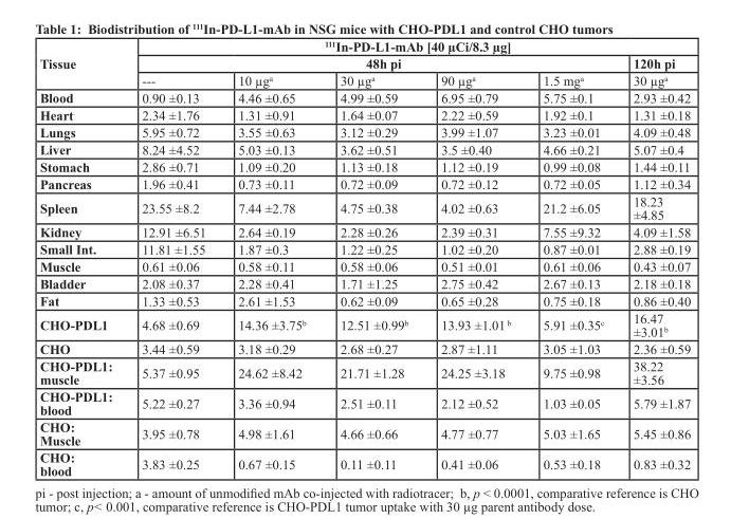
<table><thead><tr><td rowspan="3">Tissue</td><td colspan="6"><sup>111</sup>In-PD-L1-mAb [40 µCi/8.3 µg]</td></tr><tr><td colspan="5">48h pi</td><td rowspan="2">120h pi 30 µg<sup>a</sup></td></tr><tr><td>---</td><td>10 µg<sup>a</sup></td><td>30 µg<sup>a</sup></td><td>90 µg<sup>a</sup></td><td>1.5 mg<sup>a</sup></td></tr></thead><tbody><tr><td>Blood</td><td>0.90 ±0.13</td><td>4.46 ±0.65</td><td>4.99 ±0.59</td><td>6.95 ±0.79</td><td>5.75 ±0.1</td><td>2.93 ±0.42</td></tr><tr><td>Heart</td><td>2.34 ±1.76</td><td>1.31 ±0.91</td><td>1.64 ±0.07</td><td>2.22 ±0.59</td><td>1.92 ±0.1</td><td>1.31 ±0.18</td></tr><tr><td>Lungs</td><td>5.95 ±0.72</td><td>3.55 ±0.63</td><td>3.12 ±0.29</td><td>3.99 ±1.07</td><td>3.23 ±0.01</td><td>4.09 ±0.48</td></tr><tr><td>Liver</td><td>8.24 ±4.52</td><td>5.03 ±0.13</td><td>3.62 ±0.51</td><td>3.5 ±0.40</td><td>4.66 ±0.21</td><td>5.07 ±0.4</td></tr><tr><td>Stomach</td><td>2.86 ±0.71</td><td>1.09 ±0.20</td><td>1.13 ±0.18</td><td>1.12 ±0.19</td><td>0.99 ±0.08</td><td>1.44 ±0.11</td></tr><tr><td>Pancreas</td><td>1.96 ±0.41</td><td>0.73 ±0.11</td><td>0.72 ±0.09</td><td>0.72 ±0.12</td><td>0.72 ±0.05</td><td>1.12 ±0.34</td></tr><tr><td>Spleen</td><td>23.55 ±8.2</td><td>7.44 ±2.78</td><td>4.75 ±0.38</td><td>4.02 ±0.63</td><td>21.2 ±6.05</td><td>18.23 ±4.85</td></tr><tr><td>Kidney</td><td>12.91 ±6.51</td><td>2.64 ±0.19</td><td>2.28 ±0.26</td><td>2.39 ±0.31</td><td>7.55 ±9.32</td><td>4.09 ±1.58</td></tr><tr><td>Small Int.</td><td>11.81 ±1.55</td><td>1.87 ±0.3</td><td>1.22 ±0.25</td><td>1.02 ±0.20</td><td>0.87 ±0.01</td><td>2.88 ±0.19</td></tr><tr><td>Muscle</td><td>0.61 ±0.06</td><td>0.58 ±0.11</td><td>0.58 ±0.06</td><td>0.51 ±0.01</td><td>0.61 ±0.06</td><td>0.43 ±0.07</td></tr><tr><td>Bladder</td><td>2.08 ±0.37</td><td>2.28 ±0.41</td><td>1.71 ±1.25</td><td>2.75 ±0.42</td><td>2.67 ±0.13</td><td>2.18 ±0.18</td></tr><tr><td>Fat</td><td>1.33 ±0.53</td><td>2.61 ±1.53</td><td>0.62 ±0.09</td><td>0.65 ±0.28</td><td>0.75 ±0.18</td><td>0.86 ±0.40</td></tr><tr><td>CHO-PDL1</td><td>4.68 ±0.69</td><td>14.36 ±3.75<sup>b</sup></td><td>12.51 ±0.99<sup>b</sup></td><td>13.93 ±1.01 <sup>b</sup></td><td>5.91 ±0.35<sup>c</sup></td><td>16.47 ±3.01<sup>b</sup></td></tr><tr><td>CHO</td><td>3.44 ±0.59</td><td>3.18 ±0.29</td><td>2.68 ±0.27</td><td>2.87 ±1.11</td><td>3.05 ±1.03</td><td>2.36 ±0.59</td></tr><tr><td>CHO-PDL1: muscle</td><td>5.37 ±0.95</td><td>24.62 ±8.42</td><td>21.71 ±1.28</td><td>24.25 ±3.18</td><td>9.75 ±0.98</td><td>38.22 ±3.56</td></tr><tr><td>CHO-PDL1: blood</td><td>5.22 ±0.27</td><td>3.36 ±0.94</td><td>2.51 ±0.11</td><td>2.12 ±0.52</td><td>1.03 ±0.05</td><td>5.79 ±1.87</td></tr><tr><td>CHO: Muscle</td><td>3.95 ±0.78</td><td>4.98 ±1.61</td><td>4.66 ±0.66</td><td>4.77 ±0.77</td><td>5.03 ±1.65</td><td>5.45 ±0.86</td></tr><tr><td>CHO: blood</td><td>3.83 ±0.25</td><td>0.67 ±0.15</td><td>0.11 ±0.11</td><td>0.41 ±0.06</td><td>0.53 ±0.18</td><td>0.83 ±0.32</td></tr></tbody></table>